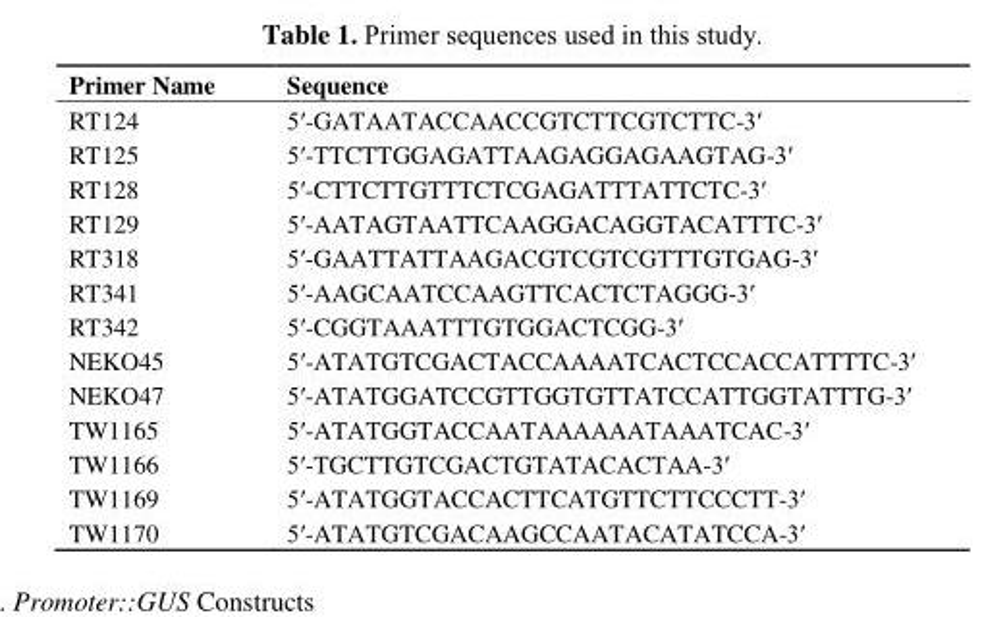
<table><thead><tr><td>Primer Name</td><td>Sequence</td></tr></thead><tbody><tr><td>RT124</td><td>5′-GATAATACCAACCGTCTTCGTCTTC-3′</td></tr><tr><td>RT125</td><td>5′-TTCTTGGAGATTAAGAGGAGAAGTAG-3′</td></tr><tr><td>RT128</td><td>5′-CTTCTTGTTTCTCGAGATTTATTCTC-3′</td></tr><tr><td>RT129</td><td>5′-AATAGTAATTCAAGGACAGGTACATTTC-3′</td></tr><tr><td>RT318</td><td>5′-GAATTATTAAGACGTCGTCGTTTGTGAG-3′</td></tr><tr><td>RT341</td><td>5′-AAGCAATCCAAGTTCACTCTAGGG-3′</td></tr><tr><td>RT342</td><td>5′-CGGTAAATTTGTGGACTCGG-3′</td></tr><tr><td>NEKO45</td><td>5′-ATATGTCGACTACCAAAATCACTCCACCATTTTC-3′</td></tr><tr><td>NEKO47</td><td>5′-ATATGGATCCGTTGGTGTTATCCATTGGTATTTG-3′</td></tr><tr><td>TW1165</td><td>5′-ATATGGTACCAATAAAAAATAAATCAC-3′</td></tr><tr><td>TW1166</td><td>5′-TGCTTGTCGACTGTATACACTAA-3′</td></tr><tr><td>TW1169</td><td>5′-ATATGGTACCACTTCATGTTCTTCCCTT-3′</td></tr><tr><td>TW1170</td><td>5′-ATATGTCGACAAGCCAATACATATCCA-3′</td></tr></tbody></table>